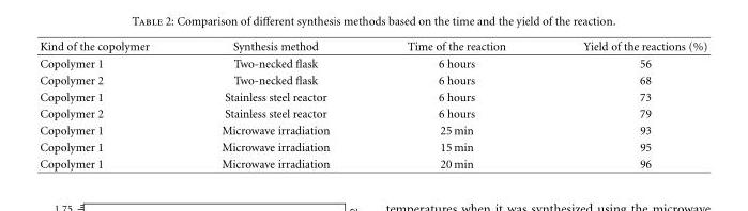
<table><thead><tr><td>Kind of the copolymer</td><td>Synthesis method</td><td>Time of the reaction</td><td>Yield of the reactions (%)</td></tr></thead><tbody><tr><td>Copolymer 1</td><td>Two-necked flask</td><td>6 hours</td><td>56</td></tr><tr><td>Copolymer 2</td><td>Two-necked flask</td><td>6 hours</td><td>68</td></tr><tr><td>Copolymer 1</td><td>Stainless steel reactor</td><td>6 hours</td><td>73</td></tr><tr><td>Copolymer 2</td><td>Stainless steel reactor</td><td>6 hours</td><td>79</td></tr><tr><td>Copolymer 1</td><td>Microwave irradiation</td><td>25 min</td><td>93</td></tr><tr><td>Copolymer 1</td><td>Microwave irradiation</td><td>15 min</td><td>95</td></tr><tr><td>Copolymer 1</td><td>Microwave irradiation</td><td>20 min</td><td>96</td></tr></tbody></table>